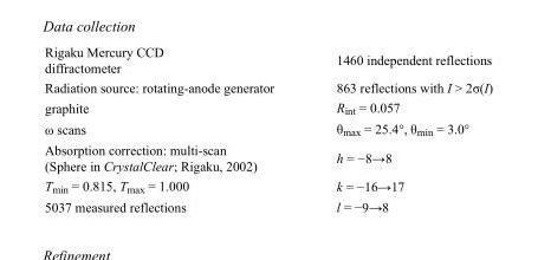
<table><tbody><tr><td>Rigaku Mercury CCD diffractometer</td><td>1460 independent reflections</td></tr><tr><td>Radiation source: rotating-anode generator</td><td>863 reflections with I &gt; 2σ(I)</td></tr><tr><td>graphite</td><td>R<sub>int</sub> = 0.057</td></tr><tr><td>ω scans</td><td>θ<sub>max</sub> = 25.4°, θ<sub>min</sub> = 3.0°</td></tr><tr><td>Absorption correction: multi-scan (Sphere in CrystalClear; Rigaku, 2002)</td><td>h = −8→8</td></tr><tr><td>T<sub>min</sub> = 0.815, T<sub>max</sub> = 1.000</td><td>k = −16→17</td></tr><tr><td>5037 measured reflections</td><td>l = −9→8</td></tr></tbody></table>